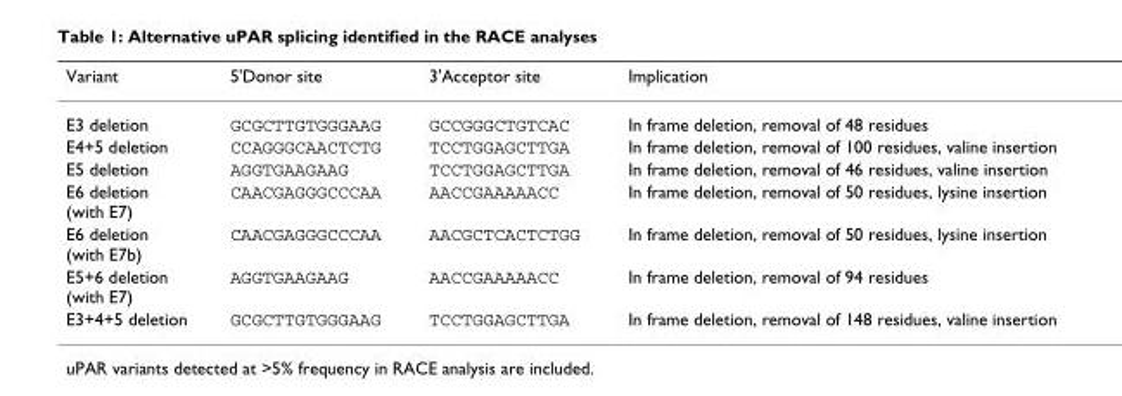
<table><thead><tr><td>Variant</td><td>5&#x27;Donor site</td><td>3&#x27;Acceptor site</td><td>Implication</td></tr></thead><tbody><tr><td>E3 deletion</td><td>GCGCTTGTGGGAAG</td><td>GCCGGGCTGTCAC</td><td>In frame deletion, removal of 48 residues</td></tr><tr><td>E4+5 deletion</td><td>CCAGGGCAACTCTG</td><td>TCCTGGAGCTTGA</td><td>In frame deletion, removal of 100 residues, valine insertion</td></tr><tr><td>E5 deletion</td><td>AGGTGAAGAAG</td><td>TCCTGGAGCTTGA</td><td>In frame deletion, removal of 46 residues, valine insertion</td></tr><tr><td>E6 deletion (with E7)</td><td>CAACGAGGGCCCAA</td><td>AACCGAAAAACC</td><td>In frame deletion, removal of 50 residues, lysine insertion</td></tr><tr><td>E6 deletion (with E7b)</td><td>CAACGAGGGCCCAA</td><td>AACGCTCACTCTGG</td><td>In frame deletion, removal of 50 residues, lysine insertion</td></tr><tr><td>E5+6 deletion (with E7)</td><td>AGGTGAAGAAG</td><td>AACCGAAAAACC</td><td>In frame deletion, removal of 94 residues</td></tr><tr><td>E3+4+5 deletion</td><td>GCGCTTGTGGGAAG</td><td>TCCTGGAGCTTGA</td><td>In frame deletion, removal of 148 residues, valine insertion</td></tr></tbody></table>